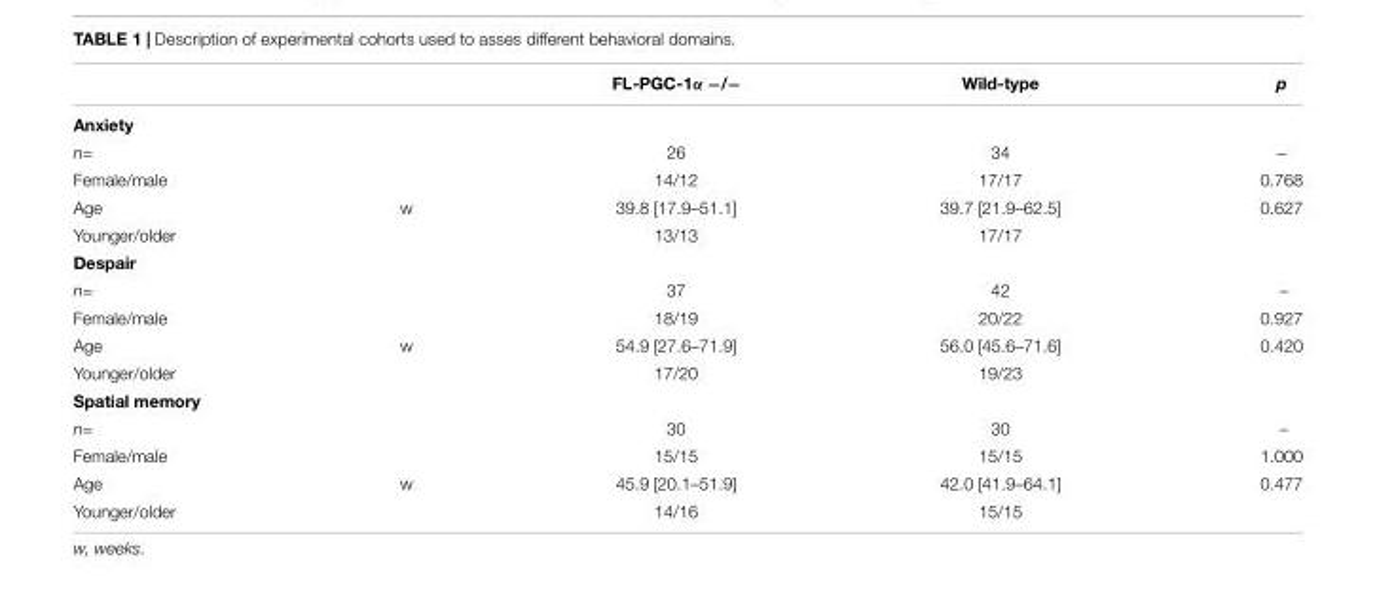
<table><thead><tr><td></td><td></td><td>FL-PGC-1α −/−</td><td>Wild-type</td><td>p</td></tr></thead><tbody><tr><td colspan="5">Anxiety</td></tr><tr><td>n=</td><td></td><td>26</td><td>34</td><td>–</td></tr><tr><td>Female/male</td><td></td><td>14/12</td><td>17/17</td><td>0.768</td></tr><tr><td>Age</td><td>w</td><td>39.8 [17.9–51.1]</td><td>39.7 [21.9–62.5]</td><td>0.627</td></tr><tr><td>Younger/older</td><td></td><td>13/13</td><td>17/17</td><td></td></tr><tr><td colspan="5">Despair</td></tr><tr><td>n=</td><td></td><td>37</td><td>42</td><td>–</td></tr><tr><td>Female/male</td><td></td><td>18/19</td><td>20/22</td><td>0.927</td></tr><tr><td>Age</td><td>w</td><td>54.9 [27.6–71.9]</td><td>56.0 [45.6–71.6]</td><td>0.420</td></tr><tr><td>Younger/older</td><td></td><td>17/20</td><td>19/23</td><td></td></tr><tr><td colspan="5">Spatial memory</td></tr><tr><td>n=</td><td></td><td>30</td><td>30</td><td>–</td></tr><tr><td>Female/male</td><td></td><td>15/15</td><td>15/15</td><td>1.000</td></tr><tr><td>Age</td><td>w</td><td>45.9 [20.1–51.9]</td><td>42.0 [41.9–64.1]</td><td>0.477</td></tr><tr><td>Younger/older</td><td></td><td>14/16</td><td>15/15</td><td></td></tr></tbody></table>